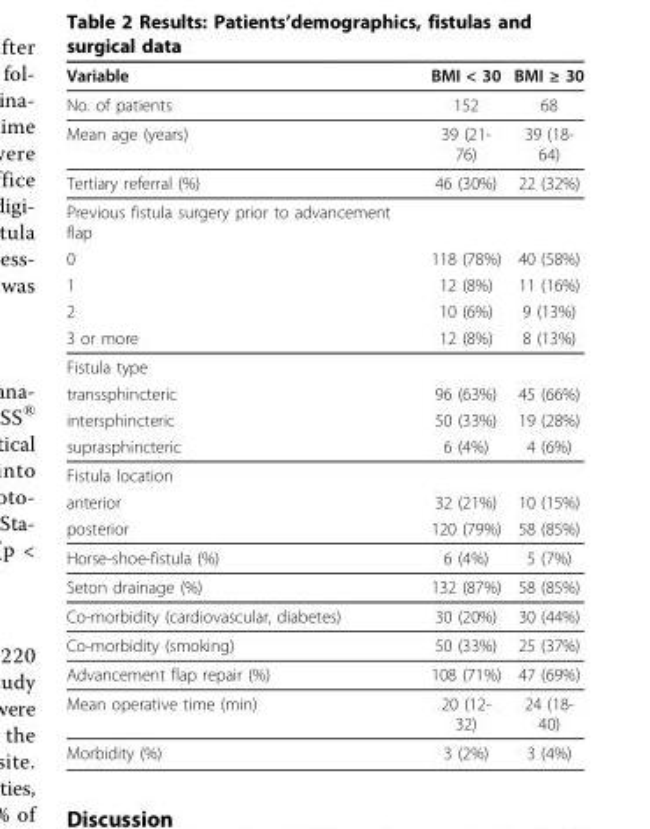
<table><thead><tr><td>Variable</td><td>BMI &lt; 30</td><td>BMI ≥ 30</td></tr></thead><tbody><tr><td>No. of patients</td><td>152</td><td>68</td></tr><tr><td>Mean age (years)</td><td>39 (21- 76)</td><td>39 (18- 64)</td></tr><tr><td>Tertiary referral (%)</td><td>46 (30%)</td><td>22 (32%)</td></tr><tr><td colspan="3">Previous fistula surgery prior to advancement flap</td></tr><tr><td>0</td><td>118 (78%)</td><td>40 (58%)</td></tr><tr><td>1</td><td>12 (8%)</td><td>11 (16%)</td></tr><tr><td>2</td><td>10 (6%)</td><td>9 (13%)</td></tr><tr><td>3 or more</td><td>12 (8%)</td><td>8 (13%)</td></tr><tr><td colspan="3">Fistula type</td></tr><tr><td>transsphincteric</td><td>96 (63%)</td><td>45 (66%)</td></tr><tr><td>intersphincteric</td><td>50 (33%)</td><td>19 (28%)</td></tr><tr><td>suprasphincteric</td><td>6 (4%)</td><td>4 (6%)</td></tr><tr><td colspan="3">Fistula location</td></tr><tr><td>anterior</td><td>32 (21%)</td><td>10 (15%)</td></tr><tr><td>posterior</td><td>120 (79%)</td><td>58 (85%)</td></tr><tr><td>Horse-shoe-fistula (%)</td><td>6 (4%)</td><td>5 (7%)</td></tr><tr><td>Seton drainage (%)</td><td>132 (87%)</td><td>58 (85%)</td></tr><tr><td>Co-morbidity (cardiovascular, diabetes)</td><td>30 (20%)</td><td>30 (44%)</td></tr><tr><td>Co-morbidity (smoking)</td><td>50 (33%)</td><td>25 (37%)</td></tr><tr><td>Advancement flap repair (%)</td><td>108 (71%)</td><td>47 (69%)</td></tr><tr><td>Mean operative time (min)</td><td>20 (12- 32)</td><td>24 (18- 40)</td></tr><tr><td>Morbidity (%)</td><td>3 (2%)</td><td>3 (4%)</td></tr></tbody></table>